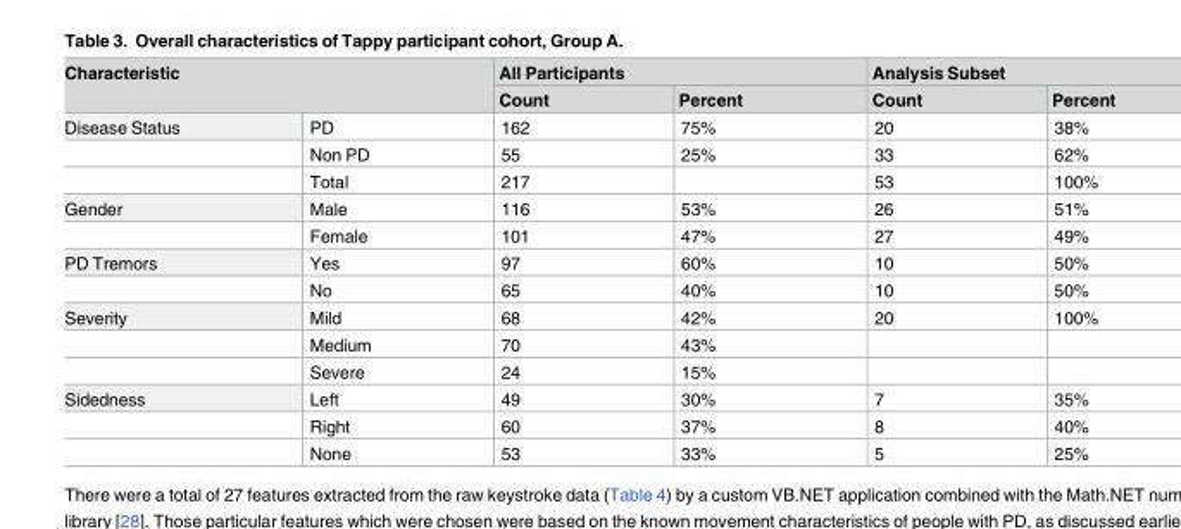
<table><thead><tr><td rowspan="2" colspan="2">Characteristic</td><td colspan="2">All Participants</td><td colspan="2">Analysis Subset</td></tr><tr><td rowspan="2">Count 162</td><td rowspan="2">Percent 75%</td><td rowspan="2">Count 20</td><td rowspan="2">Percent 38%</td></tr><tr><td>Disease Status</td><td>PD</td></tr></thead><tbody><tr><td></td><td>Non PD</td><td>55</td><td>25%</td><td>33</td><td>62%</td></tr><tr><td></td><td>Total</td><td>217</td><td></td><td>53</td><td>100%</td></tr><tr><td rowspan="2">Gender</td><td>Male</td><td>116</td><td>53%</td><td>26</td><td>51%</td></tr><tr><td>Female</td><td>101</td><td>47%</td><td>27</td><td>49%</td></tr><tr><td rowspan="2">PD Tremors</td><td>Yes</td><td>97</td><td>60%</td><td>10</td><td>50%</td></tr><tr><td>No</td><td>65</td><td>40%</td><td>10</td><td>50%</td></tr><tr><td rowspan="3">Severity</td><td>Mild</td><td>68</td><td>42%</td><td>20</td><td>100%</td></tr><tr><td>Medium</td><td>70</td><td>43%</td><td></td><td></td></tr><tr><td>Severe</td><td>24</td><td>15%</td><td></td><td></td></tr><tr><td rowspan="3">Sidedness</td><td>Left</td><td>49</td><td>30%</td><td>7</td><td>35%</td></tr><tr><td>Right</td><td>60</td><td>37%</td><td>8</td><td>40%</td></tr><tr><td>None</td><td>53</td><td>33%</td><td>5</td><td>25%</td></tr></tbody></table>